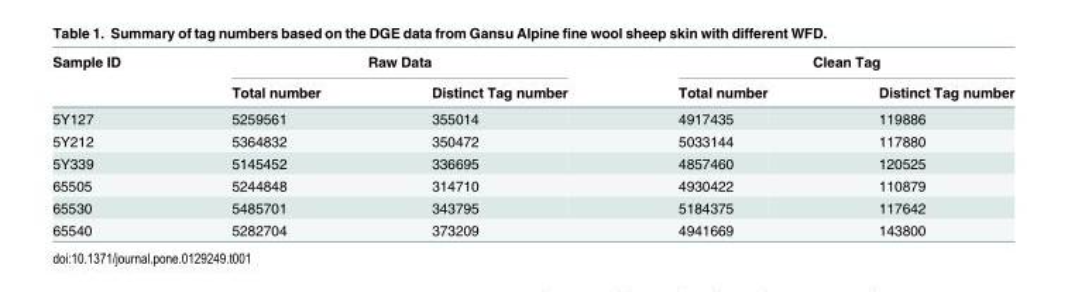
<table><thead><tr><td rowspan="2">Sample ID</td><td colspan="2">Raw Data</td><td colspan="2">Clean Tag</td></tr><tr><td>Total number</td><td>Distinct Tag number</td><td>Total number</td><td>Distinct Tag number</td></tr></thead><tbody><tr><td>5Y127</td><td>5259561</td><td>355014</td><td>4917435</td><td>119886</td></tr><tr><td>5Y212</td><td>5364832</td><td>350472</td><td>5033144</td><td>117880</td></tr><tr><td>5Y339</td><td>5145452</td><td>336695</td><td>4857460</td><td>120525</td></tr><tr><td>65505</td><td>5244848</td><td>314710</td><td>4930422</td><td>110879</td></tr><tr><td>65530</td><td>5485701</td><td>343795</td><td>5184375</td><td>117642</td></tr><tr><td>65540</td><td>5282704</td><td>373209</td><td>4941669</td><td>143800</td></tr></tbody></table>